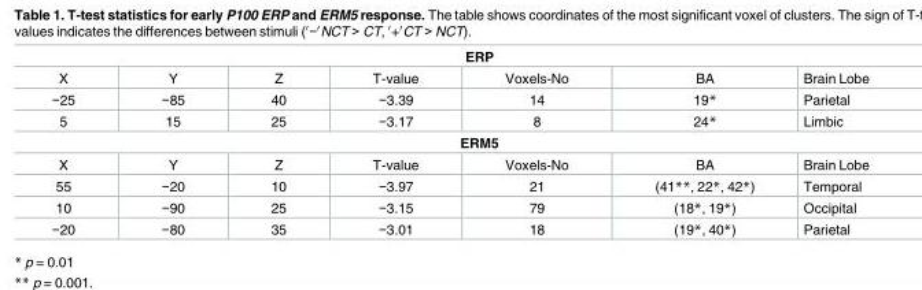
<table><tbody><tr><td colspan="7">ERP</td></tr><tr><td>X</td><td>Y</td><td>Z</td><td>T-value</td><td>Voxels-No</td><td>BA</td><td>Brain Lobe</td></tr><tr><td>−25</td><td>−85</td><td>40</td><td>−3.39</td><td>14</td><td>19*</td><td>Parietal</td></tr><tr><td>5</td><td>15</td><td>25</td><td>−3.17</td><td>8</td><td>24*</td><td>Limbic</td></tr><tr><td colspan="7">ERM5</td></tr><tr><td>X</td><td>Y</td><td>Z</td><td>T-value</td><td>Voxels-No</td><td>BA</td><td>Brain Lobe</td></tr><tr><td>55</td><td>−20</td><td>10</td><td>−3.97</td><td>21</td><td>(41**, 22*, 42*)</td><td>Temporal</td></tr><tr><td>10</td><td>−90</td><td>25</td><td>−3.15</td><td>79</td><td>(18*, 19*)</td><td>Occipital</td></tr><tr><td>−20</td><td>−80</td><td>35</td><td>−3.01</td><td>18</td><td>(19*, 40*)</td><td>Parietal</td></tr></tbody></table>